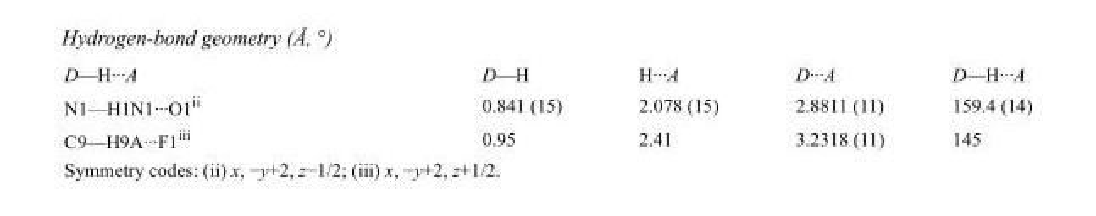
<table><tbody><tr><td>D—H···A</td><td>D—H</td><td>H···A</td><td>D···A</td><td>D—H···A</td></tr><tr><td>N1—H1N1···O1<sup>ii</sup></td><td>0.841 (15)</td><td>2.078 (15)</td><td>2.8811 (11)</td><td>159.4 (14)</td></tr><tr><td>C9—H9A···F1<sup>iii</sup></td><td>0.95</td><td>2.41</td><td>3.2318 (11)</td><td>145</td></tr></tbody></table>